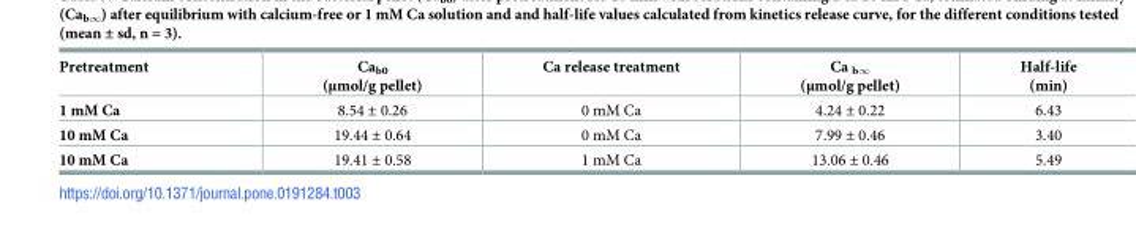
<table><thead><tr><td>Pretreatment</td><td>Ca<sub>b0</sub> (μmol/g pellet)</td><td>Ca release treatment</td><td>Ca <sub>b∞</sub> (μmol/g pellet)</td><td>Half-life (min)</td></tr></thead><tbody><tr><td>1 mM Ca</td><td>8.54 ± 0.26</td><td>0 mM Ca</td><td>4.24 ± 0.22</td><td>6.43</td></tr><tr><td>10 mM Ca</td><td>19.44 ± 0.64</td><td>0 mM Ca</td><td>7.99 ± 0.46</td><td>3.40</td></tr><tr><td>10 mM Ca</td><td>19.41 ± 0.58</td><td>1 mM Ca</td><td>13.06 ± 0.46</td><td>5.49</td></tr></tbody></table>